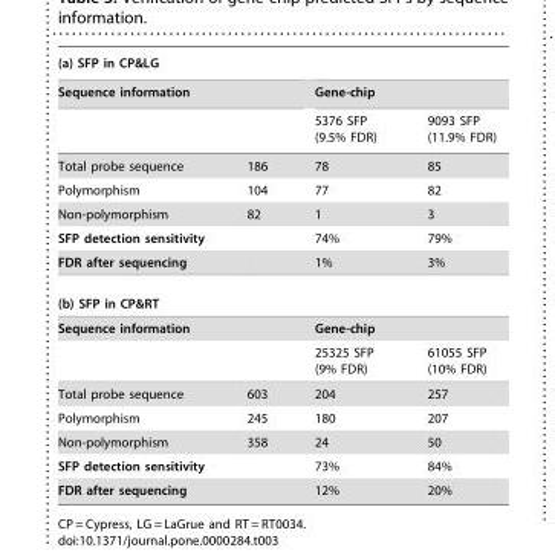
<table><thead><tr><td colspan="4">(a) SFP in CP&amp;LG</td></tr><tr><td colspan="2">Sequence information</td><td colspan="2">Gene-chip</td></tr><tr><td></td><td></td><td>5376 SFP (9.5% FDR)</td><td>9093 SFP (11.9% FDR)</td></tr></thead><tbody><tr><td>Total probe sequence</td><td>186</td><td>78</td><td>85</td></tr><tr><td>Polymorphism</td><td>104</td><td>77</td><td>82</td></tr><tr><td>Non-polymorphism</td><td>82</td><td>1</td><td>3</td></tr><tr><td>SFP detection sensitivity</td><td></td><td>74%</td><td>79%</td></tr><tr><td>FDR after sequencing</td><td></td><td>1%</td><td>3%</td></tr><tr><td colspan="4">(b) SFP in CP&amp;RT</td></tr><tr><td rowspan="2" colspan="2">Sequence information</td><td colspan="2">Gene-chip</td></tr><tr><td>25325 SFP (9% FDR)</td><td>61055 SFP (10% FDR)</td></tr><tr><td>Total probe sequence</td><td>603</td><td>204</td><td>257</td></tr><tr><td>Polymorphism</td><td>245</td><td>180</td><td>207</td></tr><tr><td>Non-polymorphism</td><td>358</td><td>24</td><td>50</td></tr><tr><td>SFP detection sensitivity</td><td></td><td>73%</td><td>84%</td></tr><tr><td>FDR after sequencing</td><td></td><td>12%</td><td>20%</td></tr></tbody></table>